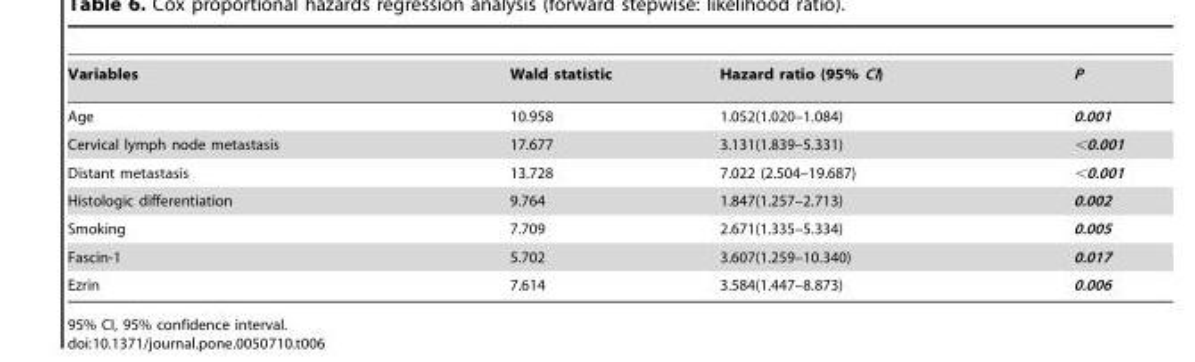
<table><tbody><tr><td>Variables</td><td>Wald statistic</td><td>Hazard ratio (95% CI)</td><td>P</td></tr><tr><td>Age</td><td>10.958</td><td>1.052(1.020–1.084)</td><td>0.001</td></tr><tr><td>Cervical lymph node metastasis</td><td>17.677</td><td>3.131(1.839–5.331)</td><td>&lt;0.001</td></tr><tr><td>Distant metastasis</td><td>13.728</td><td>7.022 (2.504–19.687)</td><td>&lt;0.001</td></tr><tr><td>Histologic differentiation</td><td>9.764</td><td>1.847(1.257–2.713)</td><td>0.002</td></tr><tr><td>Smoking</td><td>7.709</td><td>2.671(1.335–5.334)</td><td>0.005</td></tr><tr><td>Fascin-1</td><td>5.702</td><td>3.607(1.259–10.340)</td><td>0.017</td></tr><tr><td>Ezrin</td><td>7.614</td><td>3.584(1.447–8.873)</td><td>0.006</td></tr></tbody></table>